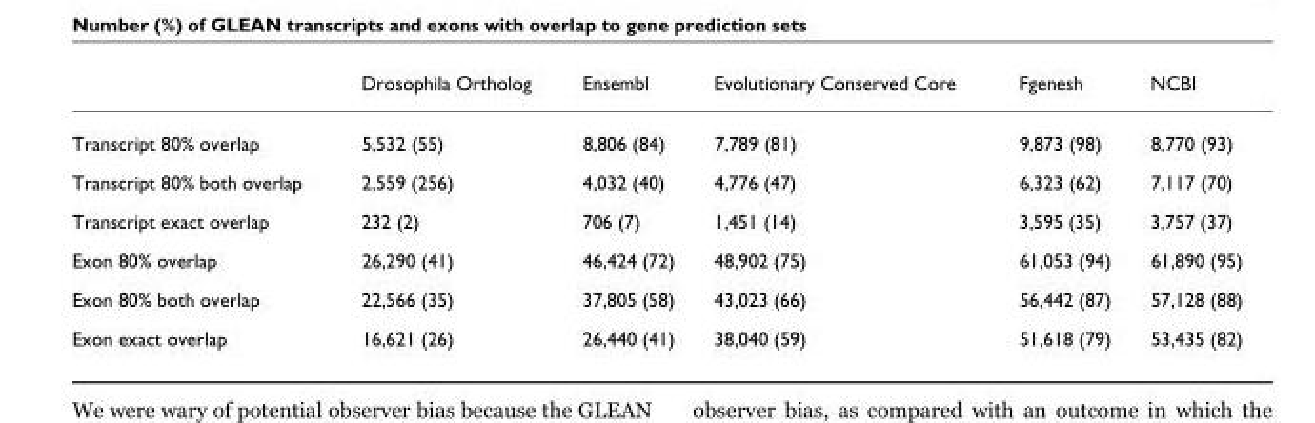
<table><thead><tr><td></td><td>Drosophila Ortholog</td><td>Ensembl</td><td>Evolutionary Conserved Core</td><td>Fgenesh</td><td>NCBI</td></tr></thead><tbody><tr><td>Transcript 80% overlap</td><td>5,532 (55)</td><td>8,806 (84)</td><td>7,789 (81)</td><td>9,873 (98)</td><td>8,770 (93)</td></tr><tr><td>Transcript 80% both overlap</td><td>2,559 (256)</td><td>4,032 (40)</td><td>4,776 (47)</td><td>6,323 (62)</td><td>7,117 (70)</td></tr><tr><td>Transcript exact overlap</td><td>232 (2)</td><td>706 (7)</td><td>1,451 (14)</td><td>3,595 (35)</td><td>3,757 (37)</td></tr><tr><td>Exon 80% overlap</td><td>26,290 (41)</td><td>46,424 (72)</td><td>48,902 (75)</td><td>61,053 (94)</td><td>61,890 (95)</td></tr><tr><td>Exon 80% both overlap</td><td>22,566 (35)</td><td>37,805 (58)</td><td>43,023 (66)</td><td>56,442 (87)</td><td>57,128 (88)</td></tr><tr><td>Exon exact overlap</td><td>16,621 (26)</td><td>26,440 (41)</td><td>38,040 (59)</td><td>51,618 (79)</td><td>53,435 (82)</td></tr></tbody></table>